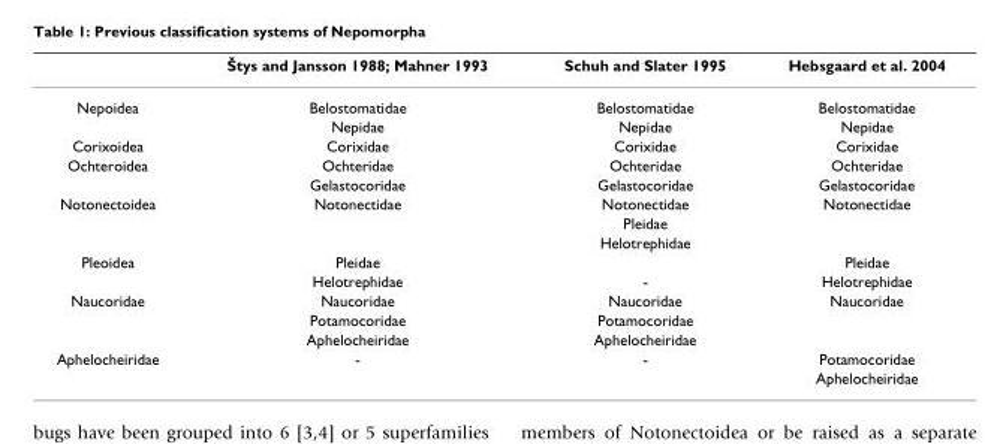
<table><thead><tr><td></td><td>Štys and Jansson 1988; Mahner 1993</td><td>Schuh and Slater 1995</td><td>Hebsgaard et al. 2004</td></tr></thead><tbody><tr><td rowspan="2">Nepoidea</td><td>Belostomatidae</td><td>Belostomatidae</td><td>Belostomatidae</td></tr><tr><td>Nepidae</td><td>Nepidae</td><td>Nepidae</td></tr><tr><td>Corixoidea</td><td>Corixidae</td><td>Corixidae</td><td>Corixidae</td></tr><tr><td rowspan="2">Ochteroidea</td><td>Ochteridae</td><td>Ochteridae</td><td>Ochteridae</td></tr><tr><td>Gelastocoridae</td><td>Gelastocoridae</td><td>Gelastocoridae</td></tr><tr><td rowspan="3">Notonectoidea</td><td>Notonectidae</td><td>Notonectidae</td><td>Notonectidae</td></tr><tr><td></td><td>Pleidae</td><td></td></tr><tr><td></td><td>Helotrephidae</td><td></td></tr><tr><td rowspan="2">Pleoidea</td><td>Pleidae</td><td></td><td>Pleidae</td></tr><tr><td>Helotrephidae</td><td>-</td><td>Helotrephidae</td></tr><tr><td rowspan="3">Naucoridae</td><td>Naucoridae</td><td>Naucoridae</td><td>Naucoridae</td></tr><tr><td>Potamocoridae</td><td>Potamocoridae</td><td></td></tr><tr><td>Aphelocheiridae</td><td>Aphelocheiridae</td><td></td></tr><tr><td rowspan="2">Aphelocheiridae</td><td>-</td><td>-</td><td>Potamocoridae</td></tr><tr><td></td><td></td><td>Aphelocheiridae</td></tr></tbody></table>